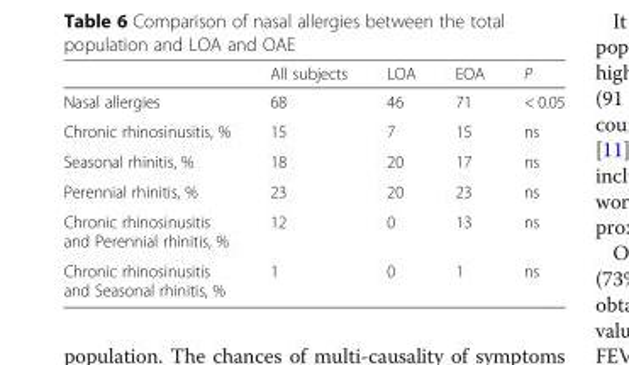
<table><thead><tr><td></td><td>All subjects</td><td>LOA</td><td>EOA</td><td>P</td></tr></thead><tbody><tr><td>Nasal allergies</td><td>68</td><td>46</td><td>71</td><td>&lt; 0.05</td></tr><tr><td>Chronic rhinosinusitis, %</td><td>15</td><td>7</td><td>15</td><td>ns</td></tr><tr><td>Seasonal rhinitis, %</td><td>18</td><td>20</td><td>17</td><td>ns</td></tr><tr><td>Perennial rhinitis, %</td><td>23</td><td>20</td><td>23</td><td>ns</td></tr><tr><td>Chronic rhinosinusitis and Perennial rhinitis, %</td><td>12</td><td>0</td><td>13</td><td>ns</td></tr><tr><td>Chronic rhinosinusitis and Seasonal rhinitis, %</td><td>1</td><td>0</td><td>1</td><td>ns</td></tr></tbody></table>